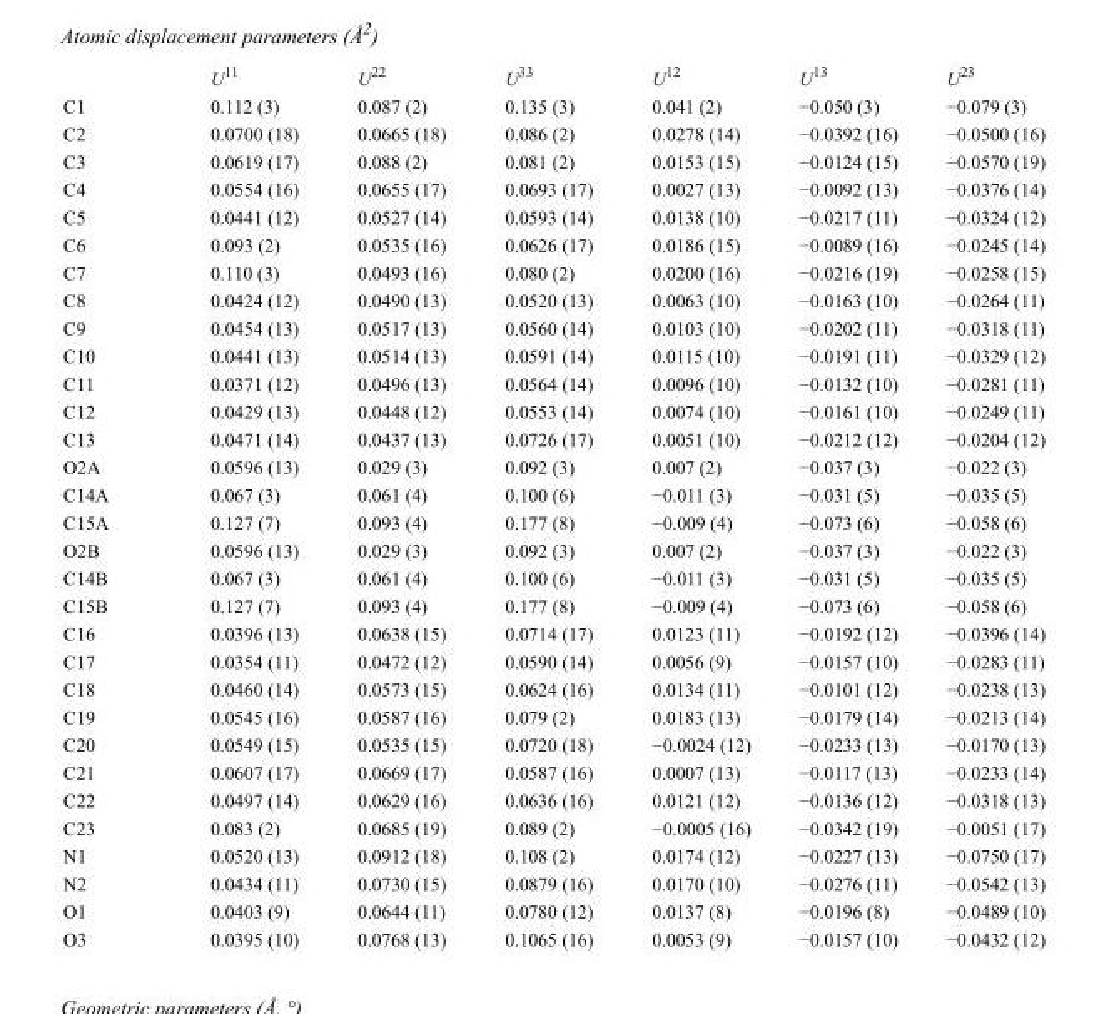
<table><thead><tr><td></td><td>U<sup>11</sup></td><td>U<sup>22</sup></td><td>U<sup>33</sup></td><td>U<sup>12</sup></td><td>U<sup>13</sup></td><td>U<sup>23</sup></td></tr></thead><tbody><tr><td>C1</td><td>0.112 (3)</td><td>0.087 (2)</td><td>0.135 (3)</td><td>0.041 (2)</td><td>−0.050 (3)</td><td>−0.079 (3)</td></tr><tr><td>C2</td><td>0.0700 (18)</td><td>0.0665 (18)</td><td>0.086 (2)</td><td>0.0278 (14)</td><td>−0.0392 (16)</td><td>−0.0500 (16)</td></tr><tr><td>C3</td><td>0.0619 (17)</td><td>0.088 (2)</td><td>0.081 (2)</td><td>0.0153 (15)</td><td>−0.0124 (15)</td><td>−0.0570 (19)</td></tr><tr><td>C4</td><td>0.0554 (16)</td><td>0.0655 (17)</td><td>0.0693 (17)</td><td>0.0027 (13)</td><td>−0.0092 (13)</td><td>−0.0376 (14)</td></tr><tr><td>C5</td><td>0.0441 (12)</td><td>0.0527 (14)</td><td>0.0593 (14)</td><td>0.0138 (10)</td><td>−0.0217 (11)</td><td>−0.0324 (12)</td></tr><tr><td>C6</td><td>0.093 (2)</td><td>0.0535 (16)</td><td>0.0626 (17)</td><td>0.0186 (15)</td><td>−0.0089 (16)</td><td>−0.0245 (14)</td></tr><tr><td>C7</td><td>0.110 (3)</td><td>0.0493 (16)</td><td>0.080 (2)</td><td>0.0200 (16)</td><td>−0.0216 (19)</td><td>−0.0258 (15)</td></tr><tr><td>C8</td><td>0.0424 (12)</td><td>0.0490 (13)</td><td>0.0520 (13)</td><td>0.0063 (10)</td><td>−0.0163 (10)</td><td>−0.0264 (11)</td></tr><tr><td>C9</td><td>0.0454 (13)</td><td>0.0517 (13)</td><td>0.0560 (14)</td><td>0.0103 (10)</td><td>−0.0202 (11)</td><td>−0.0318 (11)</td></tr><tr><td>C10</td><td>0.0441 (13)</td><td>0.0514 (13)</td><td>0.0591 (14)</td><td>0.0115 (10)</td><td>−0.0191 (11)</td><td>−0.0329 (12)</td></tr><tr><td>C11</td><td>0.0371 (12)</td><td>0.0496 (13)</td><td>0.0564 (14)</td><td>0.0096 (10)</td><td>−0.0132 (10)</td><td>−0.0281 (11)</td></tr><tr><td>C12</td><td>0.0429 (13)</td><td>0.0448 (12)</td><td>0.0553 (14)</td><td>0.0074 (10)</td><td>−0.0161 (10)</td><td>−0.0249 (11)</td></tr><tr><td>C13</td><td>0.0471 (14)</td><td>0.0437 (13)</td><td>0.0726 (17)</td><td>0.0051 (10)</td><td>−0.0212 (12)</td><td>−0.0204 (12)</td></tr><tr><td>O2A</td><td>0.0596 (13)</td><td>0.029 (3)</td><td>0.092 (3)</td><td>0.007 (2)</td><td>−0.037 (3)</td><td>−0.022 (3)</td></tr><tr><td>C14A</td><td>0.067 (3)</td><td>0.061 (4)</td><td>0.100 (6)</td><td>−0.011 (3)</td><td>−0.031 (5)</td><td>−0.035 (5)</td></tr><tr><td>C15A</td><td>0.127 (7)</td><td>0.093 (4)</td><td>0.177 (8)</td><td>−0.009 (4)</td><td>−0.073 (6)</td><td>−0.058 (6)</td></tr><tr><td>O2B</td><td>0.0596 (13)</td><td>0.029 (3)</td><td>0.092 (3)</td><td>0.007 (2)</td><td>−0.037 (3)</td><td>−0.022 (3)</td></tr><tr><td>C14B</td><td>0.067 (3)</td><td>0.061 (4)</td><td>0.100 (6)</td><td>−0.011 (3)</td><td>−0.031 (5)</td><td>−0.035 (5)</td></tr><tr><td>C15B</td><td>0.127 (7)</td><td>0.093 (4)</td><td>0.177 (8)</td><td>−0.009 (4)</td><td>−0.073 (6)</td><td>−0.058 (6)</td></tr><tr><td>C16</td><td>0.0396 (13)</td><td>0.0638 (15)</td><td>0.0714 (17)</td><td>0.0123 (11)</td><td>−0.0192 (12)</td><td>−0.0396 (14)</td></tr><tr><td>C17</td><td>0.0354 (11)</td><td>0.0472 (12)</td><td>0.0590 (14)</td><td>0.0056 (9)</td><td>−0.0157 (10)</td><td>−0.0283 (11)</td></tr><tr><td>C18</td><td>0.0460 (14)</td><td>0.0573 (15)</td><td>0.0624 (16)</td><td>0.0134 (11)</td><td>−0.0101 (12)</td><td>−0.0238 (13)</td></tr><tr><td>C19</td><td>0.0545 (16)</td><td>0.0587 (16)</td><td>0.079 (2)</td><td>0.0183 (13)</td><td>−0.0179 (14)</td><td>−0.0213 (14)</td></tr><tr><td>C20</td><td>0.0549 (15)</td><td>0.0535 (15)</td><td>0.0720 (18)</td><td>−0.0024 (12)</td><td>−0.0233 (13)</td><td>−0.0170 (13)</td></tr><tr><td>C21</td><td>0.0607 (17)</td><td>0.0669 (17)</td><td>0.0587 (16)</td><td>0.0007 (13)</td><td>−0.0117 (13)</td><td>−0.0233 (14)</td></tr><tr><td>C22</td><td>0.0497 (14)</td><td>0.0629 (16)</td><td>0.0636 (16)</td><td>0.0121 (12)</td><td>−0.0136 (12)</td><td>−0.0318 (13)</td></tr><tr><td>C23</td><td>0.083 (2)</td><td>0.0685 (19)</td><td>0.089 (2)</td><td>−0.0005 (16)</td><td>−0.0342 (19)</td><td>−0.0051 (17)</td></tr><tr><td>N1</td><td>0.0520 (13)</td><td>0.0912 (18)</td><td>0.108 (2)</td><td>0.0174 (12)</td><td>−0.0227 (13)</td><td>−0.0750 (17)</td></tr><tr><td>N2</td><td>0.0434 (11)</td><td>0.0730 (15)</td><td>0.0879 (16)</td><td>0.0170 (10)</td><td>−0.0276 (11)</td><td>−0.0542 (13)</td></tr><tr><td>O1</td><td>0.0403 (9)</td><td>0.0644 (11)</td><td>0.0780 (12)</td><td>0.0137 (8)</td><td>−0.0196 (8)</td><td>−0.0489 (10)</td></tr><tr><td>O3</td><td>0.0395 (10)</td><td>0.0768 (13)</td><td>0.1065 (16)</td><td>0.0053 (9)</td><td>−0.0157 (10)</td><td>−0.0432 (12)</td></tr></tbody></table>